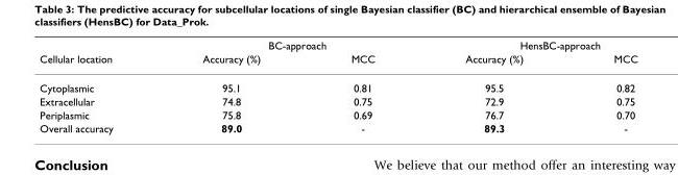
<table><thead><tr><td rowspan="2">Cellular location</td><td colspan="2">BC-approach</td><td colspan="2">HensBC-approach</td></tr><tr><td>Accuracy (%)</td><td>MCC</td><td>Accuracy (%)</td><td>MCC</td></tr></thead><tbody><tr><td>Cytoplasmic</td><td>95.1</td><td>0.81</td><td>95.5</td><td>0.82</td></tr><tr><td>Extracellular</td><td>74.8</td><td>0.75</td><td>72.9</td><td>0.75</td></tr><tr><td>Periplasmic</td><td>75.8</td><td>0.69</td><td>76.7</td><td>0.70</td></tr><tr><td>Overall accuracy</td><td>89.0</td><td>-</td><td>89.3</td><td>-</td></tr></tbody></table>